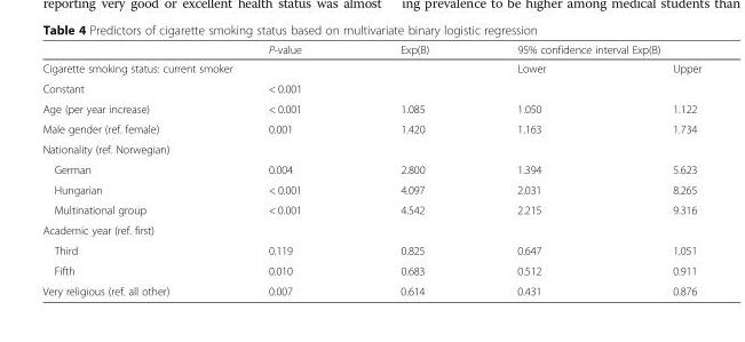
<table><thead><tr><td></td><td>P-value</td><td rowspan="2">Exp(B)</td><td colspan="2">95% confidence interval Exp(B)</td></tr><tr><td colspan="2">Cigarette smoking status: current smoker</td><td>Lower</td><td>Upper</td></tr></thead><tbody><tr><td>Constant</td><td>&lt; 0.001</td><td></td><td></td><td></td></tr><tr><td>Age (per year increase)</td><td>&lt; 0.001</td><td>1.085</td><td>1.050</td><td>1.122</td></tr><tr><td>Male gender (ref. female)</td><td>0.001</td><td>1.420</td><td>1.163</td><td>1.734</td></tr><tr><td colspan="5">Nationality (ref. Norwegian)</td></tr><tr><td>German</td><td>0.004</td><td>2.800</td><td>1.394</td><td>5.623</td></tr><tr><td>Hungarian</td><td>&lt; 0.001</td><td>4.097</td><td>2.031</td><td>8.265</td></tr><tr><td>Multinational group</td><td>&lt; 0.001</td><td>4.542</td><td>2.215</td><td>9.316</td></tr><tr><td colspan="5">Academic year (ref. first)</td></tr><tr><td>Third</td><td>0.119</td><td>0.825</td><td>0.647</td><td>1.051</td></tr><tr><td>Fifth</td><td>0.010</td><td>0.683</td><td>0.512</td><td>0.911</td></tr><tr><td>Very religious (ref. all other)</td><td>0.007</td><td>0.614</td><td>0.431</td><td>0.876</td></tr></tbody></table>